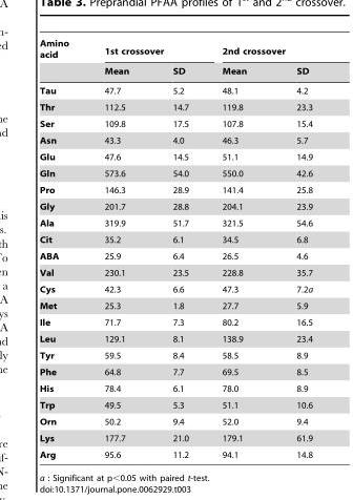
<table><thead><tr><td rowspan="2">Amino acid</td><td colspan="2">1st crossover</td><td colspan="2">2nd crossover</td></tr><tr><td>Mean</td><td>SD</td><td>Mean</td><td>SD</td></tr></thead><tbody><tr><td>Tau</td><td>47.7</td><td>5.2</td><td>48.1</td><td>4.2</td></tr><tr><td>Thr</td><td>112.5</td><td>14.7</td><td>119.8</td><td>23.3</td></tr><tr><td>Ser</td><td>109.8</td><td>17.5</td><td>107.8</td><td>15.4</td></tr><tr><td>Asn</td><td>43.3</td><td>4.0</td><td>46.3</td><td>5.7</td></tr><tr><td>Glu</td><td>47.6</td><td>14.5</td><td>51.1</td><td>14.9</td></tr><tr><td>Gln</td><td>573.6</td><td>54.0</td><td>550.0</td><td>42.6</td></tr><tr><td>Pro</td><td>146.3</td><td>28.9</td><td>141.4</td><td>25.8</td></tr><tr><td>Gly</td><td>201.7</td><td>28.8</td><td>204.1</td><td>23.9</td></tr><tr><td>Ala</td><td>319.9</td><td>51.7</td><td>321.5</td><td>54.6</td></tr><tr><td>Cit</td><td>35.2</td><td>6.1</td><td>34.5</td><td>6.8</td></tr><tr><td>ABA</td><td>25.9</td><td>6.4</td><td>26.5</td><td>4.6</td></tr><tr><td>Val</td><td>230.1</td><td>23.5</td><td>228.8</td><td>35.7</td></tr><tr><td>Cys</td><td>42.3</td><td>6.6</td><td>47.3</td><td>7.2a</td></tr><tr><td>Met</td><td>25.3</td><td>1.8</td><td>27.7</td><td>5.9</td></tr><tr><td>Ile</td><td>71.7</td><td>7.3</td><td>80.2</td><td>16.5</td></tr><tr><td>Leu</td><td>129.1</td><td>8.1</td><td>138.9</td><td>23.4</td></tr><tr><td>Tyr</td><td>59.5</td><td>8.4</td><td>58.5</td><td>8.9</td></tr><tr><td>Phe</td><td>64.8</td><td>7.7</td><td>69.5</td><td>8.5</td></tr><tr><td>His</td><td>78.4</td><td>6.1</td><td>78.0</td><td>8.9</td></tr><tr><td>Trp</td><td>49.5</td><td>5.3</td><td>51.1</td><td>10.6</td></tr><tr><td>Orn</td><td>50.2</td><td>9.4</td><td>52.0</td><td>9.4</td></tr><tr><td>Lys</td><td>177.7</td><td>21.0</td><td>179.1</td><td>61.9</td></tr><tr><td>Arg</td><td>95.6</td><td>11.2</td><td>94.1</td><td>14.8</td></tr></tbody></table>